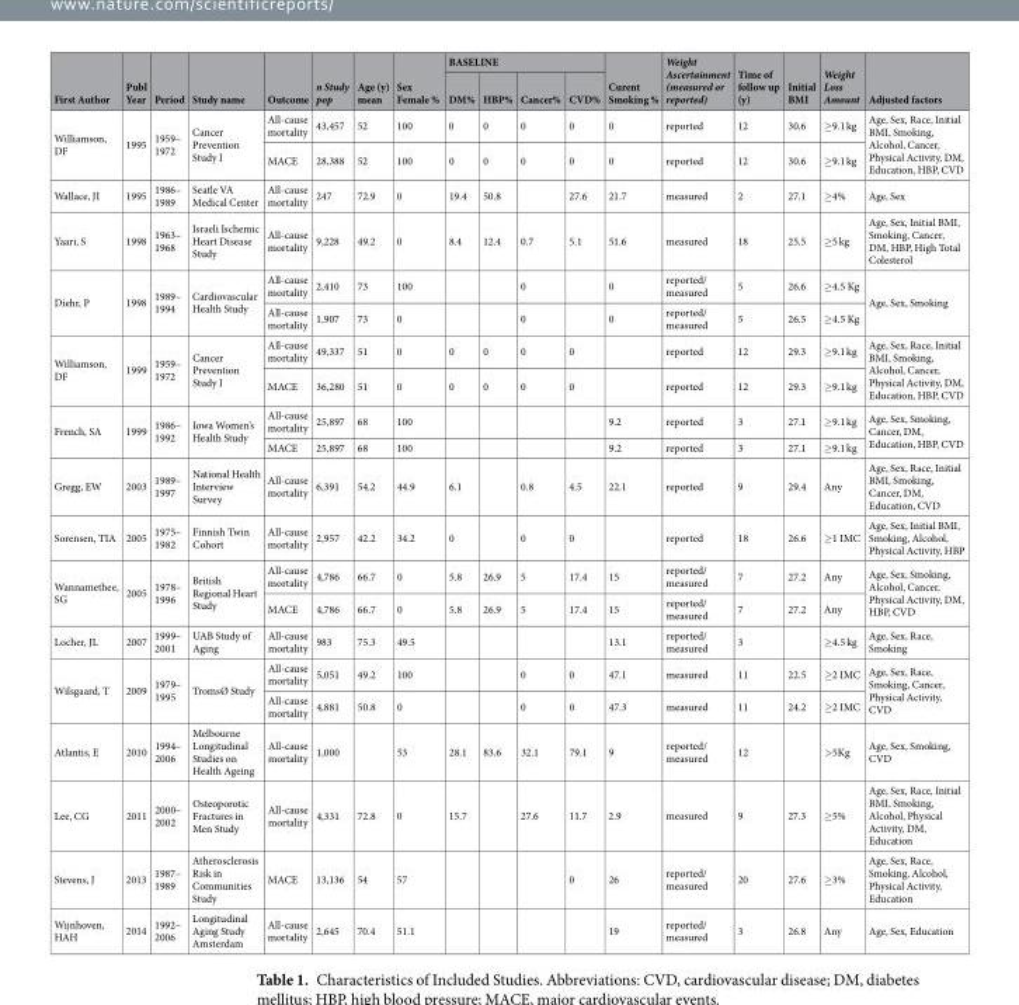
<table><thead><tr><td rowspan="2">First Author</td><td rowspan="2">Publ Year</td><td rowspan="2">Period</td><td rowspan="2">Study name</td><td rowspan="2">Outcome</td><td rowspan="2">n Study pop</td><td rowspan="2">Age (y) mean</td><td rowspan="2">Sex Female %</td><td colspan="4">BASELINE</td><td rowspan="2">Curent Smoking %</td><td rowspan="2">Weight Ascertainment (measured or reported)</td><td rowspan="2">Time of follow up (y)</td><td rowspan="2">Initial BMI</td><td rowspan="2">Weight Loss Amount</td><td rowspan="2">Adjusted factors</td></tr><tr><td>DM%</td><td>HBP%</td><td>Cancer%</td><td>CVD%</td></tr></thead><tbody><tr><td rowspan="2">Williamson, DF</td><td rowspan="2">1995</td><td rowspan="2">1959– 1972</td><td rowspan="2">Cancer Prevention Study I</td><td>All-cause mortality</td><td>43,457</td><td>52</td><td>100</td><td>0</td><td>0</td><td>0</td><td>0</td><td>0</td><td>reported</td><td>12</td><td>30.6</td><td>≥9.1 kg</td><td rowspan="2">Age, Sex, Race, Initial BMI, Smoking, Alcohol, Cancer, Physical Activity, DM, Education, HBP, CVD</td></tr><tr><td>MACE</td><td>28,388</td><td>52</td><td>100</td><td>0</td><td>0</td><td>0</td><td>0</td><td>0</td><td>reported</td><td>12</td><td>30.6</td><td>≥9.1 kg</td></tr><tr><td>Wallace, JI</td><td>1995</td><td>1986– 1989</td><td>Seatle VA Medical Center</td><td>All-cause mortality</td><td>247</td><td>72.9</td><td>0</td><td>19.4</td><td>50.8</td><td></td><td>27.6</td><td>21.7</td><td>measured</td><td>2</td><td>27.1</td><td>≥4%</td><td>Age, Sex</td></tr><tr><td>Yaari, S</td><td>1998</td><td>1963– 1968</td><td>Israeli Ischemic Heart Disease Study</td><td>All-cause mortality</td><td>9,228</td><td>49.2</td><td>0</td><td>8.4</td><td>12.4</td><td>0.7</td><td>5.1</td><td>51.6</td><td>measured</td><td>18</td><td>25.5</td><td>≥5 kg</td><td>Age, Sex, Initial BMI, Smoking, Cancer, DM, HBP, High Total Colesterol</td></tr><tr><td rowspan="2">Diehr, P</td><td rowspan="2">1998</td><td rowspan="2">1989– 1994</td><td rowspan="2">Cardiovascular Health Study</td><td>All-cause mortality</td><td>2,410</td><td>73</td><td>100</td><td></td><td></td><td>0</td><td></td><td>0</td><td>reported/ measured</td><td>5</td><td>26.6</td><td>≥4.5 Kg</td><td rowspan="2">Age, Sex, Smoking</td></tr><tr><td>All-cause mortality</td><td>1,907</td><td>73</td><td>0</td><td></td><td></td><td>0</td><td></td><td>0</td><td>reported/ measured</td><td>5</td><td>26.5</td><td>≥4.5 Kg</td></tr><tr><td rowspan="2">Williamson, DF</td><td rowspan="2">1999</td><td rowspan="2">1959– 1972</td><td rowspan="2">Cancer Prevention Study I</td><td>All-cause mortality</td><td>49,337</td><td>51</td><td>0</td><td>0</td><td>0</td><td>0</td><td>0</td><td></td><td>reported</td><td>12</td><td>29.3</td><td>≥9.1 kg</td><td rowspan="2">Age, Sex, Race, Initial BMI, Smoking, Alcohol, Cancer, Physical Activity, DM, Education, HBP, CVD</td></tr><tr><td>MACE</td><td>36,280</td><td>51</td><td>0</td><td>0</td><td>0</td><td>0</td><td>0</td><td></td><td>reported</td><td>12</td><td>29.3</td><td>≥9.1 kg</td></tr><tr><td rowspan="2">French, SA</td><td rowspan="2">1999</td><td rowspan="2">1986– 1992</td><td rowspan="2">Iowa Women’s Health Study</td><td>All-cause mortality</td><td>25,897</td><td>68</td><td>100</td><td></td><td></td><td></td><td></td><td>9.2</td><td>reported</td><td>3</td><td>27.1</td><td>≥9.1 kg</td><td rowspan="2">Age, Sex, Smoking, Cancer, DM, Education, HBP, CVD</td></tr><tr><td>MACE</td><td>25,897</td><td>68</td><td>100</td><td></td><td></td><td></td><td></td><td>9.2</td><td>reported</td><td>3</td><td>27.1</td><td>≥9.1 kg</td></tr><tr><td>Gregg, EW</td><td>2003</td><td>1989– 1997</td><td>National Health Interview Survey</td><td>All-cause mortality</td><td>6,391</td><td>54.2</td><td>44.9</td><td>6.1</td><td></td><td>0.8</td><td>4.5</td><td>22.1</td><td>reported</td><td>9</td><td>29.4</td><td>Any</td><td>Age, Sex, Race, Initial BMI, Smoking, Cancer, DM, Education, CVD</td></tr><tr><td>Sorensen, TIA</td><td>2005</td><td>1975– 1982</td><td>Finnish Twin Cohort</td><td>All-cause mortality</td><td>2,957</td><td>42.2</td><td>34.2</td><td>0</td><td></td><td>0</td><td>0</td><td></td><td>reported</td><td>18</td><td>26.6</td><td>≥1 IMC</td><td>Age, Sex, Initial BMI, Smoking, Alcohol, Physical Activity, HBP</td></tr><tr><td rowspan="2">Wannamethee, SG</td><td rowspan="2">2005</td><td rowspan="2">1978– 1996</td><td rowspan="2">British Regional Heart Study</td><td>All-cause mortality</td><td>4,786</td><td>66.7</td><td>0</td><td>5.8</td><td>26.9</td><td>5</td><td>17.4</td><td>15</td><td>reported/ measured</td><td>7</td><td>27.2</td><td>Any</td><td rowspan="2">Age, Sex, Smoking, Alcohol, Cancer, Physical Activity, DM, HBP, CVD</td></tr><tr><td>MACE</td><td>4,786</td><td>66.7</td><td>0</td><td>5.8</td><td>26.9</td><td>5</td><td>17.4</td><td>15</td><td>reported/ measured</td><td>7</td><td>27.2</td><td>Any</td></tr><tr><td>Locher, JL</td><td>2007</td><td>1999– 2001</td><td>UAB Study of Aging</td><td>All-cause mortality</td><td>983</td><td>75.3</td><td>49.5</td><td></td><td></td><td></td><td></td><td>13.1</td><td>reported/ measured</td><td>3</td><td></td><td>≥4.5 kg</td><td>Age, Sex, Race, Smoking</td></tr><tr><td rowspan="2">Wilsgaard, T</td><td rowspan="2">2009</td><td rowspan="2">1979– 1995</td><td rowspan="2">TromsØ Study</td><td>All-cause mortality</td><td>5,051</td><td>49.2</td><td>100</td><td></td><td></td><td>0</td><td>0</td><td>47.1</td><td>measured</td><td>11</td><td>22.5</td><td>≥2 IMC</td><td rowspan="2">Age, Sex, Race, Smoking, Cancer, Physical Activity, CVD</td></tr><tr><td>All-cause mortality</td><td>4,881</td><td>50.8</td><td>0</td><td></td><td></td><td>0</td><td>0</td><td>47.3</td><td>measured</td><td>11</td><td>24.2</td><td>≥2 IMC</td></tr><tr><td>Atlantis, E</td><td>2010</td><td>1994– 2006</td><td>Melbourne Longitudinal Studies on Health Ageing</td><td>All-cause mortality</td><td>1,000</td><td></td><td>53</td><td>28.1</td><td>83.6</td><td>32.1</td><td>79.1</td><td>9</td><td>reported/ measured</td><td>12</td><td></td><td>&gt;5Kg</td><td>Age, Sex, Smoking, CVD</td></tr><tr><td>Lee, CG</td><td>2011</td><td>2000– 2002</td><td>Osteoporotic Fractures in Men Study</td><td>All-cause mortality</td><td>4,331</td><td>72.8</td><td>0</td><td>15.7</td><td></td><td>27.6</td><td>11.7</td><td>2.9</td><td>measured</td><td>9</td><td>27.3</td><td>≥5%</td><td>Age, Sex, Race, Initial BMI, Smoking, Alcohol, Physical Activity, DM, Education</td></tr><tr><td>Stevens, J</td><td>2013</td><td>1987– 1989</td><td>Atherosclerosis Risk in Communities Study</td><td>MACE</td><td>13,136</td><td>54</td><td>57</td><td></td><td></td><td></td><td>0</td><td>26</td><td>reported/ measured</td><td>20</td><td>27.6</td><td>≥3%</td><td>Age, Sex, Race, Smoking, Alcohol, Physical Activity, Education</td></tr><tr><td>Wijnhoven, HAH</td><td>2014</td><td>1992– 2006</td><td>Longitudinal Aging Study Amsterdam</td><td>All-cause mortality</td><td>2,645</td><td>70.4</td><td>51.1</td><td></td><td></td><td></td><td></td><td>19</td><td>reported/ measured</td><td>3</td><td>26.8</td><td>Any</td><td>Age, Sex, Education</td></tr></tbody></table>